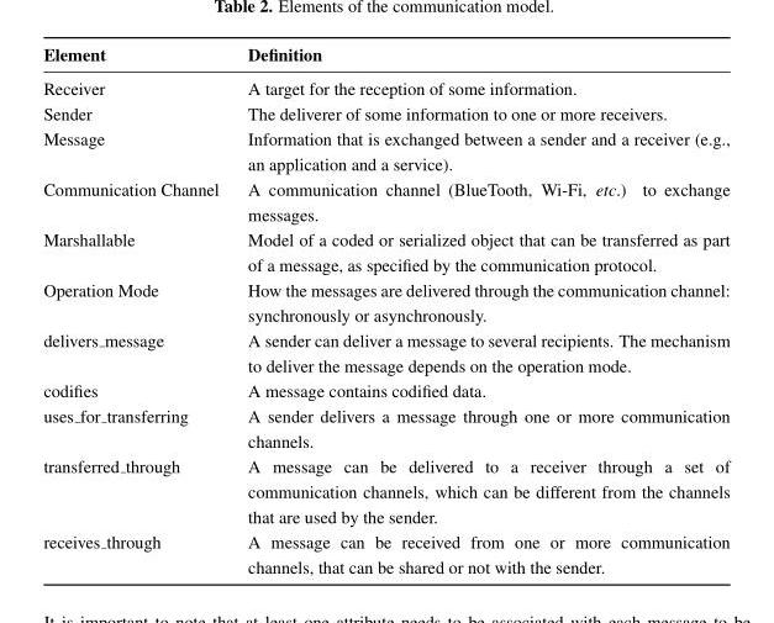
<table><thead><tr><td>Element</td><td>Definition</td></tr></thead><tbody><tr><td>Receiver</td><td>A target for the reception of some information.</td></tr><tr><td>Sender</td><td>The deliverer of some information to one or more receivers.</td></tr><tr><td>Message</td><td>Information that is exchanged between a sender and a receiver (e.g., an application and a service).</td></tr><tr><td>Communication Channel</td><td>A communication channel (BlueTooth, Wi-Fi, etc.) to exchange messages.</td></tr><tr><td>Marshallable</td><td>Model of a coded or serialized object that can be transferred as part of a message, as specified by the communication protocol.</td></tr><tr><td>Operation Mode</td><td>How the messages are delivered through the communication channel: synchronously or asynchronously.</td></tr><tr><td>delivers message</td><td>A sender can deliver a message to several recipients. The mechanism to deliver the message depends on the operation mode.</td></tr><tr><td>codifies</td><td>A message contains codified data.</td></tr><tr><td>uses for transferring</td><td>A sender delivers a message through one or more communication channels.</td></tr><tr><td>transferred through</td><td>A message can be delivered to a receiver through a set of communication channels, which can be different from the channels that are used by the sender.</td></tr><tr><td>receives through</td><td>A message can be received from one or more communication channels, that can be shared or not with the sender.</td></tr></tbody></table>